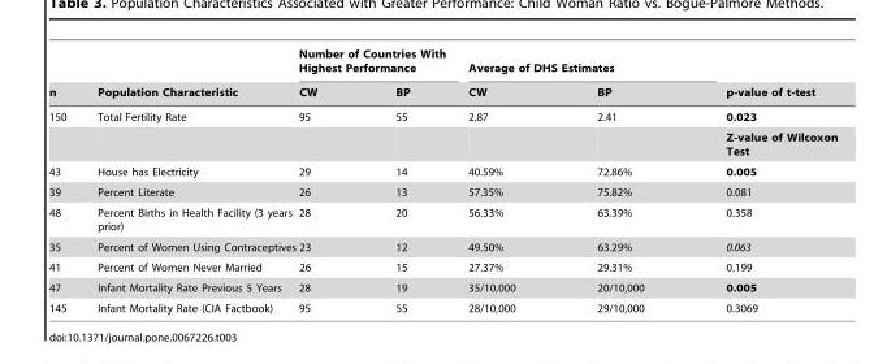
<table><thead><tr><td rowspan="2">n</td><td rowspan="2">Population Characteristic</td><td colspan="2">Number of Countries With Highest Performance</td><td colspan="2">Average of DHS Estimates</td><td rowspan="2">p-value of t-test</td></tr><tr><td>CW</td><td>BP</td><td>CW</td><td>BP</td></tr></thead><tbody><tr><td rowspan="2">150</td><td>Total Fertility Rate</td><td>95</td><td>55</td><td>2.87</td><td>2.41</td><td>0.023</td></tr><tr><td></td><td></td><td></td><td></td><td></td><td>Z-value of Wilcoxon Test</td></tr><tr><td>43</td><td>House has Electricity</td><td>29</td><td>14</td><td>40.59%</td><td>72.86%</td><td>0.005</td></tr><tr><td>39</td><td>Percent Literate</td><td>26</td><td>13</td><td>57.35%</td><td>75.82%</td><td>0.081</td></tr><tr><td>48</td><td>Percent Births in Health Facility (3 years prior)</td><td>28</td><td>20</td><td>56.33%</td><td>63.39%</td><td>0.358</td></tr><tr><td>35</td><td>Percent of Women Using Contraceptives</td><td>23</td><td>12</td><td>49.50%</td><td>63.29%</td><td>0.063</td></tr><tr><td>41</td><td>Percent of Women Never Married</td><td>26</td><td>15</td><td>27.37%</td><td>29.31%</td><td>0.199</td></tr><tr><td>47</td><td>Infant Mortality Rate Previous 5 Years</td><td>28</td><td>19</td><td>35/10,000</td><td>20/10,000</td><td>0.005</td></tr><tr><td>145</td><td>Infant Mortality Rate (CIA Factbook)</td><td>95</td><td>55</td><td>28/10,000</td><td>29/10,000</td><td>0.3069</td></tr></tbody></table>